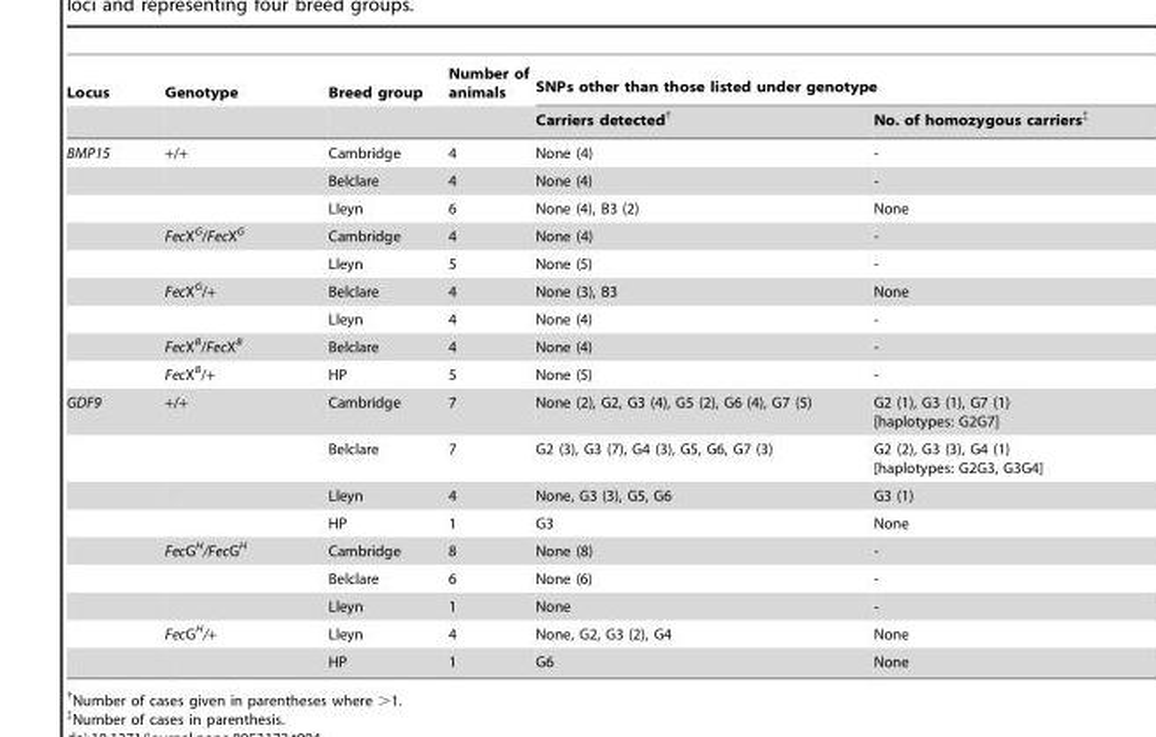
<table><thead><tr><td rowspan="2">Locus</td><td rowspan="2">Genotype</td><td rowspan="2">Breed group</td><td rowspan="2">Number of animals</td><td colspan="2">SNPs other than those listed under genotype</td></tr><tr><td>Carriers detected†</td><td>No. of homozygous carriers‡</td></tr></thead><tbody><tr><td rowspan="9">BMP15</td><td>+/+</td><td>Cambridge</td><td>4</td><td>None (4)</td><td>-</td></tr><tr><td></td><td>Belclare</td><td>4</td><td>None (4)</td><td>-</td></tr><tr><td></td><td>Lleyn</td><td>6</td><td>None (4), B3 (2)</td><td>None</td></tr><tr><td>FecX<sup>G</sup>/FecX<sup>G</sup></td><td>Cambridge</td><td>4</td><td>None (4)</td><td>-</td></tr><tr><td></td><td>Lleyn</td><td>5</td><td>None (5)</td><td>-</td></tr><tr><td>FecX<sup>G</sup>/+</td><td>Belclare</td><td>4</td><td>None (3), B3</td><td>None</td></tr><tr><td></td><td>Lleyn</td><td>4</td><td>None (4)</td><td>-</td></tr><tr><td>FecX<sup>B</sup>/FecX<sup>B</sup></td><td>Belclare</td><td>4</td><td>None (4)</td><td>-</td></tr><tr><td>FecX<sup>B</sup>/+</td><td>HP</td><td>5</td><td>None (5)</td><td>-</td></tr><tr><td rowspan="9">GDF9</td><td>+/+</td><td>Cambridge</td><td>7</td><td>None (2), G2, G3 (4), G5 (2), G6 (4), G7 (5)</td><td>G2 (1), G3 (1), G7 (1) [haplotypes: G2G7]</td></tr><tr><td></td><td>Belclare</td><td>7</td><td>G2 (3), G3 (7), G4 (3), G5, G6, G7 (3)</td><td>G2 (2), G3 (3), G4 (1) [haplotypes: G2G3, G3G4]</td></tr><tr><td></td><td>Lleyn</td><td>4</td><td>None, G3 (3), G5, G6</td><td>G3 (1)</td></tr><tr><td></td><td>HP</td><td>1</td><td>G3</td><td>None</td></tr><tr><td>FecG<sup>H</sup>/FecG<sup>H</sup></td><td>Cambridge</td><td>8</td><td>None (8)</td><td>-</td></tr><tr><td></td><td>Belclare</td><td>6</td><td>None (6)</td><td>-</td></tr><tr><td></td><td>Lleyn</td><td>1</td><td>None</td><td>-</td></tr><tr><td>FecG<sup>H</sup>/+</td><td>Lleyn</td><td>4</td><td>None, G2, G3 (2), G4</td><td>None</td></tr><tr><td></td><td>HP</td><td>1</td><td>G6</td><td>None</td></tr></tbody></table>